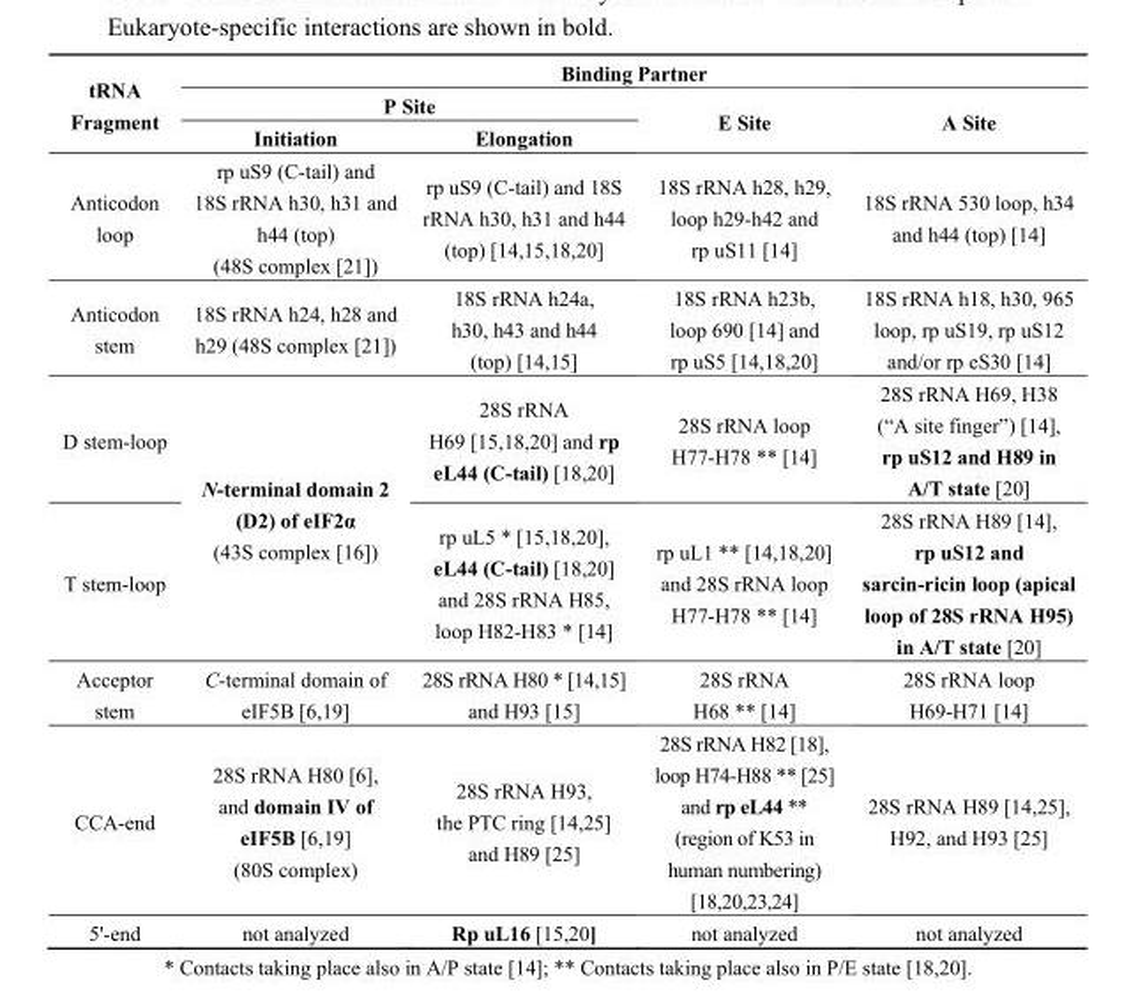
<table><thead><tr><td rowspan="3">tRNA Fragment</td><td colspan="4">Binding Partner</td></tr><tr><td colspan="2">P Site</td><td rowspan="2">E Site</td><td rowspan="2">A Site</td></tr><tr><td>Initiation</td><td>Elongation</td></tr></thead><tbody><tr><td>Anticodon loop</td><td>rp uS9 (C-tail) and 18S rRNA h30, h31 and h44 (top) (48S complex [21])</td><td>rp uS9 (C-tail) and 18S rRNA h30, h31 and h44 (top) [14,15,18,20]</td><td>18S rRNA h28, h29, loop h29-h42 and rp uS11 [14]</td><td>18S rRNA 530 loop, h34 and h44 (top) [14]</td></tr><tr><td>Anticodon stem</td><td>18S rRNA h24, h28 and h29 (48S complex [21])</td><td>18S rRNA h24a, h30, h43 and h44 (top) [14,15]</td><td>18S rRNA h23b, loop 690 [14] and rp uS5 [14,18,20]</td><td>18S rRNA h18, h30, 965 loop, rp uS19, rp uS12 and/or rp eS30 [14]</td></tr><tr><td>D stem-loop</td><td rowspan="2">N-terminal domain 2 (D2) of eIF2α (43S complex [16])</td><td>28S rRNA H69 [15,18,20] and rp eL44 (C-tail) [18,20]</td><td>28S rRNA loop H77-H78 ** [14]</td><td>28S rRNA H69, H38 (“A site finger”) [14], rp uS12 and H89 in A/T state [20]</td></tr><tr><td>T stem-loop</td><td>rp uL5 * [15,18,20], eL44 (C-tail) [18,20] and 28S rRNA H85, loop H82-H83 * [14]</td><td>rp uL1 ** [14,18,20] and 28S rRNA loop H77-H78 ** [14]</td><td>28S rRNA H89 [14], rp uS12 and sarcin-ricin loop (apical loop of 28S rRNA H95) in A/T state [20]</td></tr><tr><td>Acceptor stem</td><td>C-terminal domain of eIF5B [6,19]</td><td>28S rRNA H80 * [14,15] and H93 [15]</td><td>28S rRNA H68 ** [14]</td><td>28S rRNA loop H69-H71 [14]</td></tr><tr><td>CCA-end</td><td>28S rRNA H80 [6], and domain IV of eIF5B [6,19] (80S complex)</td><td>28S rRNA H93, the PTC ring [14,25] and H89 [25]</td><td>28S rRNA H82 [18], loop H74-H88 ** [25] and rp eL44 ** (region of K53 in human numbering) [18,20,23,24]</td><td>28S rRNA H89 [14,25], H92, and H93 [25]</td></tr><tr><td>5&#x27;-end</td><td>not analyzed</td><td>Rp uL16 [15,20]</td><td>not analyzed</td><td>not analyzed</td></tr></tbody></table>